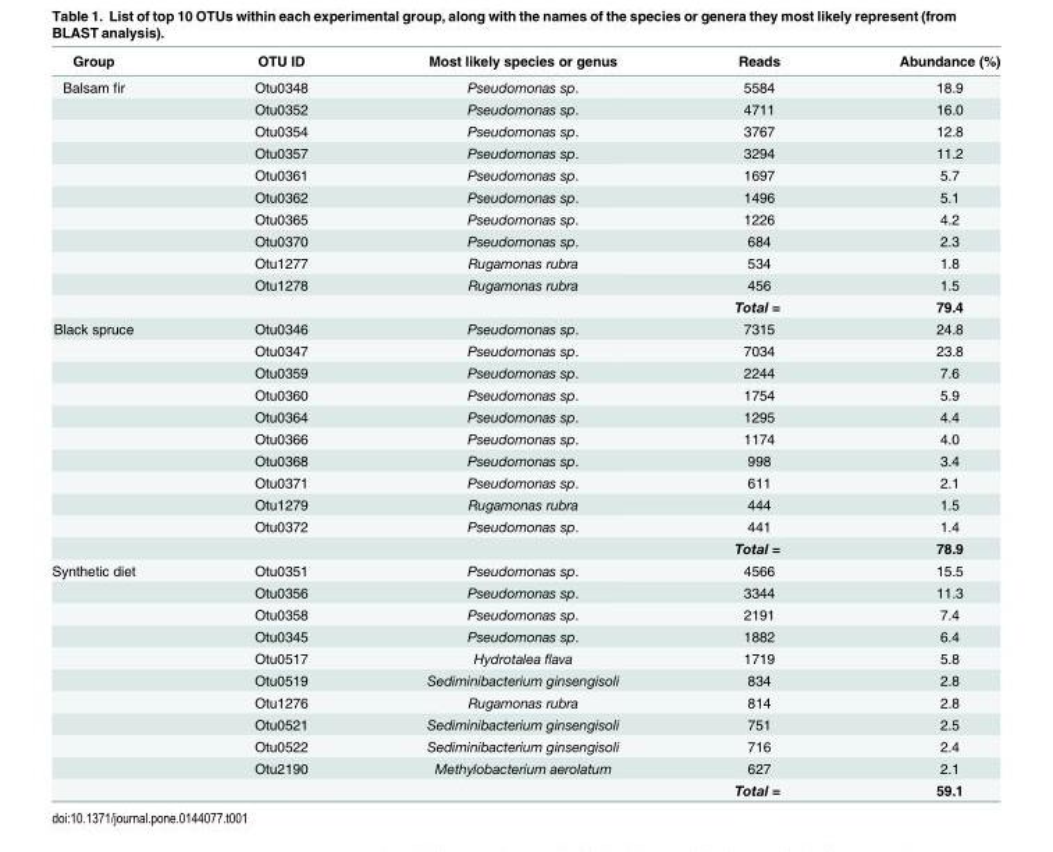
<table><thead><tr><td>Group</td><td>OTU ID</td><td>Most likely species or genus</td><td>Reads</td><td>Abundance (%)</td></tr></thead><tbody><tr><td rowspan="10">Balsam fir</td><td>Otu0348</td><td>Pseudomonas sp.</td><td>5584</td><td>18.9</td></tr><tr><td>Otu0352</td><td>Pseudomonas sp.</td><td>4711</td><td>16.0</td></tr><tr><td>Otu0354</td><td>Pseudomonas sp.</td><td>3767</td><td>12.8</td></tr><tr><td>Otu0357</td><td>Pseudomonas sp.</td><td>3294</td><td>11.2</td></tr><tr><td>Otu0361</td><td>Pseudomonas sp.</td><td>1697</td><td>5.7</td></tr><tr><td>Otu0362</td><td>Pseudomonas sp.</td><td>1496</td><td>5.1</td></tr><tr><td>Otu0365</td><td>Pseudomonas sp.</td><td>1226</td><td>4.2</td></tr><tr><td>Otu0370</td><td>Pseudomonas sp.</td><td>684</td><td>2.3</td></tr><tr><td>Otu1277</td><td>Rugamonas rubra</td><td>534</td><td>1.8</td></tr><tr><td>Otu1278</td><td>Rugamonas rubra</td><td>456</td><td>1.5</td></tr><tr><td colspan="4">Total =</td><td>79.4</td></tr><tr><td rowspan="10">Black spruce</td><td>Otu0346</td><td>Pseudomonas sp.</td><td>7315</td><td>24.8</td></tr><tr><td>Otu0347</td><td>Pseudomonas sp.</td><td>7034</td><td>23.8</td></tr><tr><td>Otu0359</td><td>Pseudomonas sp.</td><td>2244</td><td>7.6</td></tr><tr><td>Otu0360</td><td>Pseudomonas sp.</td><td>1754</td><td>5.9</td></tr><tr><td>Otu0364</td><td>Pseudomonas sp.</td><td>1295</td><td>4.4</td></tr><tr><td>Otu0366</td><td>Pseudomonas sp.</td><td>1174</td><td>4.0</td></tr><tr><td>Otu0368</td><td>Pseudomonas sp.</td><td>998</td><td>3.4</td></tr><tr><td>Otu0371</td><td>Pseudomonas sp.</td><td>611</td><td>2.1</td></tr><tr><td>Otu1279</td><td>Rugamonas rubra</td><td>444</td><td>1.5</td></tr><tr><td>Otu0372</td><td>Pseudomonas sp.</td><td>441</td><td>1.4</td></tr><tr><td colspan="4">Total =</td><td>78.9</td></tr><tr><td rowspan="10">Synthetic diet</td><td>Otu0351</td><td>Pseudomonas sp.</td><td>4566</td><td>15.5</td></tr><tr><td>Otu0356</td><td>Pseudomonas sp.</td><td>3344</td><td>11.3</td></tr><tr><td>Otu0358</td><td>Pseudomonas sp.</td><td>2191</td><td>7.4</td></tr><tr><td>Otu0345</td><td>Pseudomonas sp.</td><td>1882</td><td>6.4</td></tr><tr><td>Otu0517</td><td>Hydrotalea flava</td><td>1719</td><td>5.8</td></tr><tr><td>Otu0519</td><td>Sediminibacterium ginsengisoli</td><td>834</td><td>2.8</td></tr><tr><td>Otu1276</td><td>Rugamonas rubra</td><td>814</td><td>2.8</td></tr><tr><td>Otu0521</td><td>Sediminibacterium ginsengisoli</td><td>751</td><td>2.5</td></tr><tr><td>Otu0522</td><td>Sediminibacterium ginsengisoli</td><td>716</td><td>2.4</td></tr><tr><td>Otu2190</td><td>Methylobacterium aerolatum</td><td>627</td><td>2.1</td></tr><tr><td colspan="4">Total =</td><td>59.1</td></tr></tbody></table>